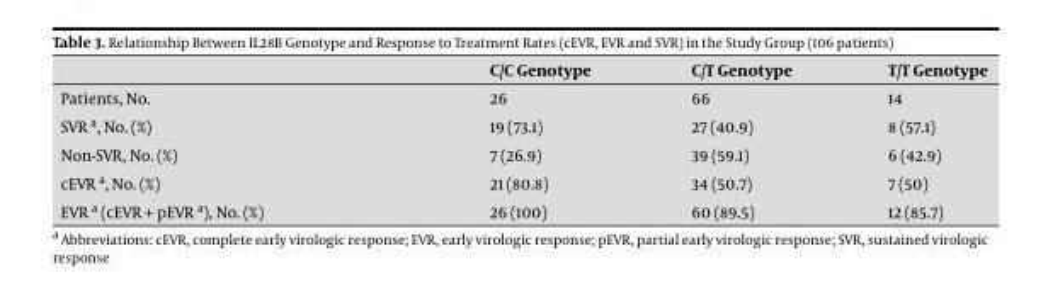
<table><thead><tr><td></td><td>C/C Genotype</td><td>C/T Genotype</td><td>T/T Genotype</td></tr></thead><tbody><tr><td>Patients, No.</td><td>26</td><td>66</td><td>14</td></tr><tr><td>SVR a, No. (%)</td><td>19 (73.1)</td><td>27 (40.9)</td><td>8 (57.1)</td></tr><tr><td>Non-SVR, No. (%)</td><td>7 (26.9)</td><td>39 (59.1)</td><td>6 (42.9)</td></tr><tr><td>cEVR a, No. (%)</td><td>21 (80.8)</td><td>34 (50.7)</td><td>7 (50)</td></tr><tr><td>EVR a (cEVR + pEVR a), No. (%)</td><td>26 (100)</td><td>60 (89.5)</td><td>12 (85.7)</td></tr></tbody></table>